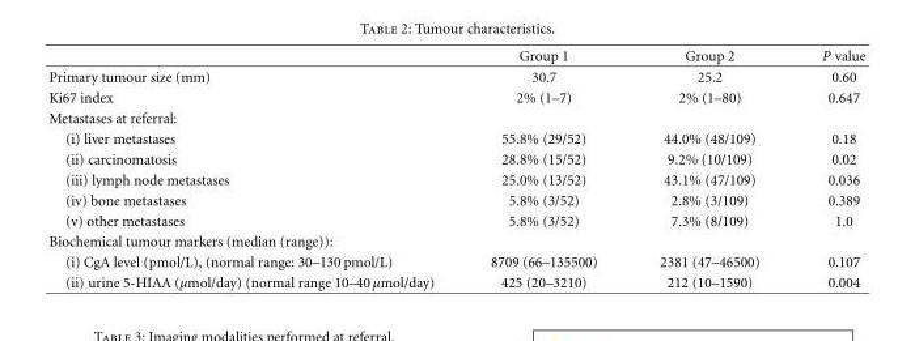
<table><thead><tr><td></td><td>Group 1</td><td>Group 2</td><td>P value</td></tr></thead><tbody><tr><td>Primary tumour size (mm)</td><td>30.7</td><td>25.2</td><td>0.60</td></tr><tr><td>Ki67 index</td><td>2% (1–7)</td><td>2% (1–80)</td><td>0.647</td></tr><tr><td colspan="4">Metastases at referral:</td></tr><tr><td>(i) liver metastases</td><td>55.8% (29/52)</td><td>44.0% (48/109)</td><td>0.18</td></tr><tr><td>(ii) carcinomatosis</td><td>28.8% (15/52)</td><td>9.2% (10/109)</td><td>0.02</td></tr><tr><td>(iii) lymph node metastases</td><td>25.0% (13/52)</td><td>43.1% (47/109)</td><td>0.036</td></tr><tr><td>(iv) bone metastases</td><td>5.8% (3/52)</td><td>2.8% (3/109)</td><td>0.389</td></tr><tr><td>(v) other metastases</td><td>5.8% (3/52)</td><td>7.3% (8/109)</td><td>1.0</td></tr><tr><td colspan="4">Biochemical tumour markers (median (range)):</td></tr><tr><td>(i) CgA level (pmol/L), (normal range: 30–130 pmol/L)</td><td>8709 (66–135500)</td><td>2381 (47–46500)</td><td>0.107</td></tr><tr><td>(ii) urine 5-HIAA (µmol/day) (normal range 10–40 µmol/day)</td><td>425 (20–3210)</td><td>212 (10–1590)</td><td>0.004</td></tr></tbody></table>